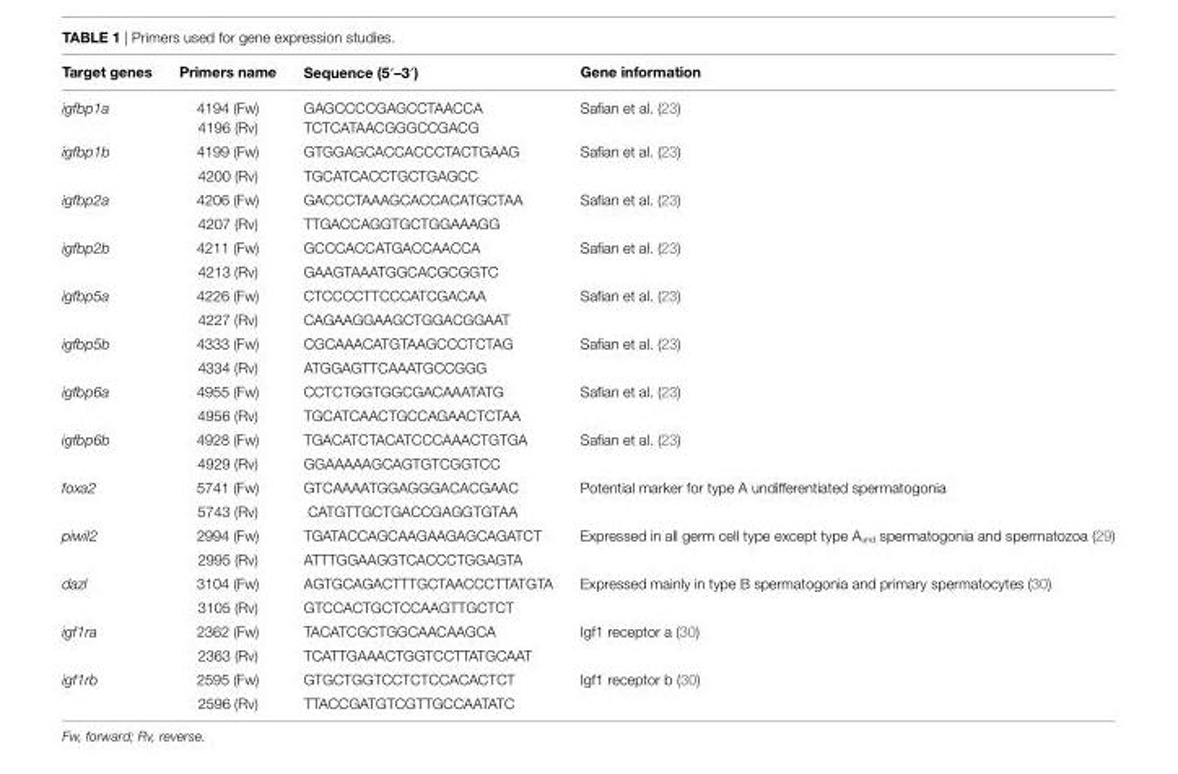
<table><thead><tr><td>Target genes</td><td>Primers name</td><td>sequence (5′–3′)</td><td>gene information</td></tr></thead><tbody><tr><td rowspan="2">igfbp1a</td><td>4194 (Fw)</td><td>GAGCCCCGAGCCTAACCA</td><td>Safian et al. (23)</td></tr><tr><td>4196 (Rv)</td><td>TCTCATAACGGGCCGACG</td><td></td></tr><tr><td rowspan="2">igfbp1b</td><td>4199 (Fw)</td><td>GTGGAGCACCACCCTACTGAAG</td><td>Safian et al. (23)</td></tr><tr><td>4200 (Rv)</td><td>TGCATCACCTGCTGAGCC</td><td></td></tr><tr><td rowspan="2">igfbp2a</td><td>4206 (Fw)</td><td>GACCCTAAAGCACCACATGCTAA</td><td>Safian et al. (23)</td></tr><tr><td>4207 (Rv)</td><td>TTGACCAGGTGCTGGAAAGG</td><td></td></tr><tr><td rowspan="2">igfbp2b</td><td>4211 (Fw)</td><td>GCCCACCATGACCAACCA</td><td>Safian et al. (23)</td></tr><tr><td>4213 (Rv)</td><td>GAAGTAAATGGCACGCGGTC</td><td></td></tr><tr><td rowspan="2">igfbp5a</td><td>4226 (Fw)</td><td>CTCCCCTTCCCATCGACAA</td><td>Safian et al. (23)</td></tr><tr><td>4227 (Rv)</td><td>CAGAAGGAAGCTGGACGGAAT</td><td></td></tr><tr><td rowspan="2">igfbp5b</td><td>4333 (Fw)</td><td>CGCAAACATGTAAGCCCTCTAG</td><td>Safian et al. (23)</td></tr><tr><td>4334 (Rv)</td><td>ATGGAGTTCAAATGCCGGG</td><td></td></tr><tr><td rowspan="2">igfbp6a</td><td>4955 (Fw)</td><td>CCTCTGGTGGCGACAAATATG</td><td>Safian et al. (23)</td></tr><tr><td>4956 (Rv)</td><td>TGCATCAACTGCCAGAACTCTAA</td><td></td></tr><tr><td rowspan="2">igfbp6b</td><td>4928 (Fw)</td><td>TGACATCTACATCCCAAACTGTGA</td><td>Safian et al. (23)</td></tr><tr><td>4929 (Rv)</td><td>GGAAAAAGCAGTGTCGGTCC</td><td></td></tr><tr><td rowspan="2">foxa2</td><td>5741 (Fw)</td><td>GTCAAAATGGAGGGACACGAAC</td><td>Potential marker for type A undifferentiated spermatogonia</td></tr><tr><td>5743 (Rv)</td><td>CATGTTGCTGACCGAGGTGTAA</td><td></td></tr><tr><td rowspan="2">piwil2</td><td>2994 (Fw)</td><td>TGATACCAGCAAGAAGAGCAGATCT</td><td>Expressed in all germ cell type except type A<sub>und</sub> spermatogonia and spermatozoa (29)</td></tr><tr><td>2995 (Rv)</td><td>ATTTGGAAGGTCACCCTGGAGTA</td><td></td></tr><tr><td rowspan="2">dazl</td><td>3104 (Fw)</td><td>AGTGCAGACTTTGCTAACCCTTATGTA</td><td>Expressed mainly in type B spermatogonia and primary spermatocytes (30)</td></tr><tr><td>3105 (Rv)</td><td>GTCCACTGCTCCAAGTTGCTCT</td><td></td></tr><tr><td rowspan="2">igf1ra</td><td>2362 (Fw)</td><td>TACATCGCTGGCAACAAGCA</td><td>Igf1 receptor a (30)</td></tr><tr><td>2363 (Rv)</td><td>TCATTGAAACTGGTCCTTATGCAAT</td><td></td></tr><tr><td rowspan="2">igf1rb</td><td>2595 (Fw)</td><td>GTGCTGGTCCTCTCCACACTCT</td><td>Igf1 receptor b (30)</td></tr><tr><td>2596 (Rv)</td><td>TTACCGATGTCGTTGCCAATATC</td><td></td></tr></tbody></table>